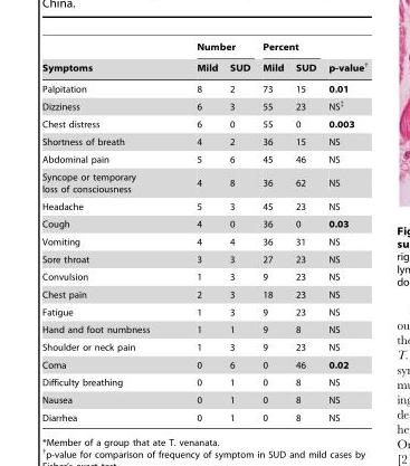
<table><thead><tr><td rowspan="2">Symptoms</td><td colspan="2">Number</td><td colspan="2">Percent</td><td rowspan="2">p-value†</td></tr><tr><td>Mild</td><td>SUD</td><td>Mild</td><td>SUD</td></tr></thead><tbody><tr><td>Palpitation</td><td>8</td><td>2</td><td>73</td><td>15</td><td>0.01</td></tr><tr><td>Dizziness</td><td>6</td><td>3</td><td>55</td><td>23</td><td>NS‡</td></tr><tr><td>Chest distress</td><td>6</td><td>0</td><td>55</td><td>0</td><td>0.003</td></tr><tr><td>Shortness of breath</td><td>4</td><td>2</td><td>36</td><td>15</td><td>NS</td></tr><tr><td>Abdominal pain</td><td>5</td><td>6</td><td>45</td><td>46</td><td>NS</td></tr><tr><td>Syncope or temporary loss of consciousness</td><td>4</td><td>8</td><td>36</td><td>62</td><td>NS</td></tr><tr><td>Headache</td><td>5</td><td>3</td><td>45</td><td>23</td><td>NS</td></tr><tr><td>Cough</td><td>4</td><td>0</td><td>36</td><td>0</td><td>0.03</td></tr><tr><td>Vomiting</td><td>4</td><td>4</td><td>36</td><td>31</td><td>NS</td></tr><tr><td>Sore throat</td><td>3</td><td>3</td><td>27</td><td>23</td><td>NS</td></tr><tr><td>Convulsion</td><td>1</td><td>3</td><td>9</td><td>23</td><td>NS</td></tr><tr><td>Chest pain</td><td>2</td><td>3</td><td>18</td><td>23</td><td>NS</td></tr><tr><td>Fatigue</td><td>1</td><td>3</td><td>9</td><td>23</td><td>NS</td></tr><tr><td>Hand and foot numbness</td><td>1</td><td>1</td><td>9</td><td>8</td><td>NS</td></tr><tr><td>Shoulder or neck pain</td><td>1</td><td>3</td><td>9</td><td>23</td><td>NS</td></tr><tr><td>Coma</td><td>0</td><td>6</td><td>0</td><td>46</td><td>0.02</td></tr><tr><td>Difficulty breathing</td><td>0</td><td>1</td><td>0</td><td>8</td><td>NS</td></tr><tr><td>Nausea</td><td>0</td><td>1</td><td>0</td><td>8</td><td>NS</td></tr><tr><td>Diarrhea</td><td>0</td><td>1</td><td>0</td><td>8</td><td>NS</td></tr></tbody></table>